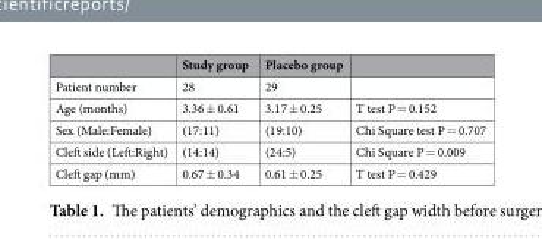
<table><thead><tr><td></td><td>Study group</td><td>Placebo group</td><td></td></tr></thead><tbody><tr><td>Patient number</td><td>28</td><td>29</td><td></td></tr><tr><td>Age (months)</td><td>3.36 ± 0.61</td><td>3.17 ± 0.25</td><td>T test P = 0.152</td></tr><tr><td>Sex (Male:Female)</td><td>(17:11)</td><td>(19:10)</td><td>Chi Square test P = 0.707</td></tr><tr><td>Cleft side (Left:Right)</td><td>(14:14)</td><td>(24:5)</td><td>Chi Square P = 0.009</td></tr><tr><td>Cleft gap (mm)</td><td>0.67 ± 0.34</td><td>0.61 ± 0.25</td><td>T test P = 0.429</td></tr></tbody></table>